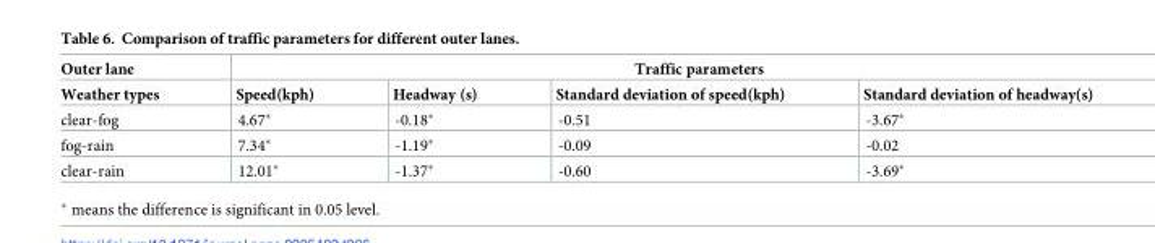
<table><thead><tr><td rowspan="2">Outer lane Weather types</td><td colspan="4">Traffic parameters</td></tr><tr><td>Speed(kph)</td><td>Headway (s)</td><td>Standard deviation of speed(kph)</td><td>Standard deviation of headway(s)</td></tr></thead><tbody><tr><td>clear-fog</td><td>4.67*</td><td>-0.18*</td><td>-0.51</td><td>-3.67*</td></tr><tr><td>fog-rain</td><td>7.34*</td><td>-1.19*</td><td>-0.09</td><td>-0.02</td></tr><tr><td>clear-rain</td><td>12.01*</td><td>-1.37*</td><td>-0.60</td><td>-3.69*</td></tr></tbody></table>